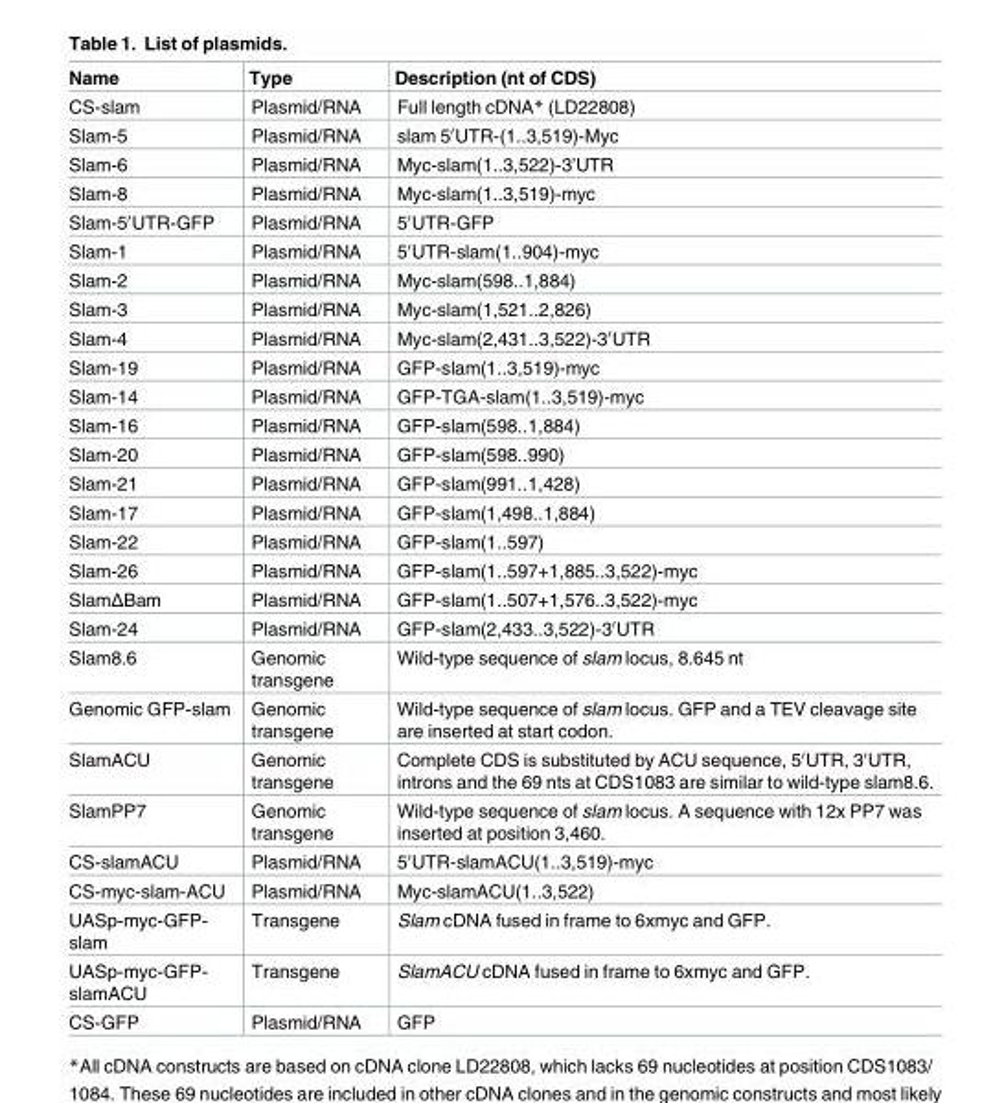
<table><thead><tr><td>Name</td><td>Type</td><td>Description (nt of CDS)</td></tr></thead><tbody><tr><td>CS-slam</td><td>Plasmid/RNA</td><td>Full length cDNA* (LD22808)</td></tr><tr><td>Slam-5</td><td>Plasmid/RNA</td><td>slam 5′UTR-(1..3,519)-Myc</td></tr><tr><td>Slam-6</td><td>Plasmid/RNA</td><td>Myc-slam(1..3,522)-3’UTR</td></tr><tr><td>Slam-8</td><td>Plasmid/RNA</td><td>Myc-slam(1..3,519)-myc</td></tr><tr><td>Slam-5′UTR-GFP</td><td>Plasmid/RNA</td><td>5′UTR-GFP</td></tr><tr><td>Slam-1</td><td>Plasmid/RNA</td><td>5′UTR-slam(1..904)-myc</td></tr><tr><td>Slam-2</td><td>Plasmid/RNA</td><td>Myc-slam(598..1,884)</td></tr><tr><td>Slam-3</td><td>Plasmid/RNA</td><td>Myc-slam(1,521..2,826)</td></tr><tr><td>Slam-4</td><td>Plasmid/RNA</td><td>Myc-slam(2,431..3,522)-3′UTR</td></tr><tr><td>Slam-19</td><td>Plasmid/RNA</td><td>GFP-slam(1..3,519)-myc</td></tr><tr><td>Slam-14</td><td>Plasmid/RNA</td><td>GFP-TGA-slam(1..3,519)-myc</td></tr><tr><td>Slam-16</td><td>Plasmid/RNA</td><td>GFP-slam(598..1,884)</td></tr><tr><td>Slam-20</td><td>Plasmid/RNA</td><td>GFP-slam(598..990)</td></tr><tr><td>Slam-21</td><td>Plasmid/RNA</td><td>GFP-slam(991..1,428)</td></tr><tr><td>Slam-17</td><td>Plasmid/RNA</td><td>GFP-slam(1,498..1,884)</td></tr><tr><td>Slam-22</td><td>Plasmid/RNA</td><td>GFP-slam(1..597)</td></tr><tr><td>Slam-26</td><td>Plasmid/RNA</td><td>GFP-slam(1..597+1,885..3,522)-myc</td></tr><tr><td>SlamΔBam</td><td>Plasmid/RNA</td><td>GFP-slam(1..507+1,576..3,522)-myc</td></tr><tr><td>Slam-24</td><td>Plasmid/RNA</td><td>GFP-slam(2,433..3,522)-3′UTR</td></tr><tr><td>Slam8.6</td><td>Genomic transgene</td><td>Wild-type sequence of slam locus, 8.645 nt</td></tr><tr><td>Genomic GFP-slam</td><td>Genomic transgene</td><td>Wild-type sequence of slam locus. GFP and a TEV cleavage site are inserted at start codon.</td></tr><tr><td>SlamACU</td><td>Genomic transgene</td><td>Complete CDS is substituted by ACU sequence, 5′UTR, 3′UTR, introns and the 69 nts at CDS1083 are similar to wild-type slam8.6.</td></tr><tr><td>SlamPP7</td><td>Genomic transgene</td><td>Wild-type sequence of slam locus. A sequence with 12x PP7 was inserted at position 3,460.</td></tr><tr><td>CS-slamACU</td><td>Plasmid/RNA</td><td>5′UTR-slamACU(1..3,519)-myc</td></tr><tr><td>CS-myc-slam-ACU</td><td>Plasmid/RNA</td><td>Myc-slamACU(1..3,522)</td></tr><tr><td>UASp-myc-GFP- slam</td><td>Transgene</td><td>Slam cDNA fused in frame to 6xmyc and GFP.</td></tr><tr><td>UASp-myc-GFP- slamACU</td><td>Transgene</td><td>SlamACU cDNA fused in frame to 6xmyc and GFP.</td></tr><tr><td>CS-GFP</td><td>Plasmid/RNA</td><td>GFP</td></tr></tbody></table>